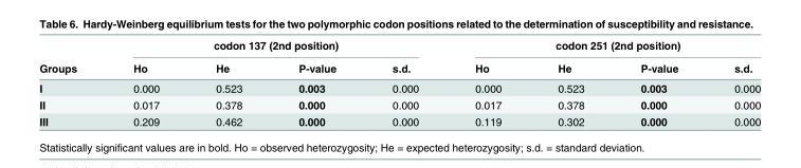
<table><thead><tr><td rowspan="2">Groups</td><td colspan="4">codon 137 (2nd position)</td><td colspan="4">codon 251 (2nd position)</td></tr><tr><td>Ho</td><td>He</td><td>P-value</td><td>s.d.</td><td>Ho</td><td>He</td><td>P-value</td><td>s.d.</td></tr></thead><tbody><tr><td>I</td><td>0.000</td><td>0.523</td><td>0.003</td><td>0.000</td><td>0.000</td><td>0.523</td><td>0.003</td><td>0.000</td></tr><tr><td>II</td><td>0.017</td><td>0.378</td><td>0.000</td><td>0.000</td><td>0.017</td><td>0.378</td><td>0.000</td><td>0.000</td></tr><tr><td>III</td><td>0.209</td><td>0.462</td><td>0.000</td><td>0.000</td><td>0.119</td><td>0.302</td><td>0.000</td><td>0.000</td></tr></tbody></table>